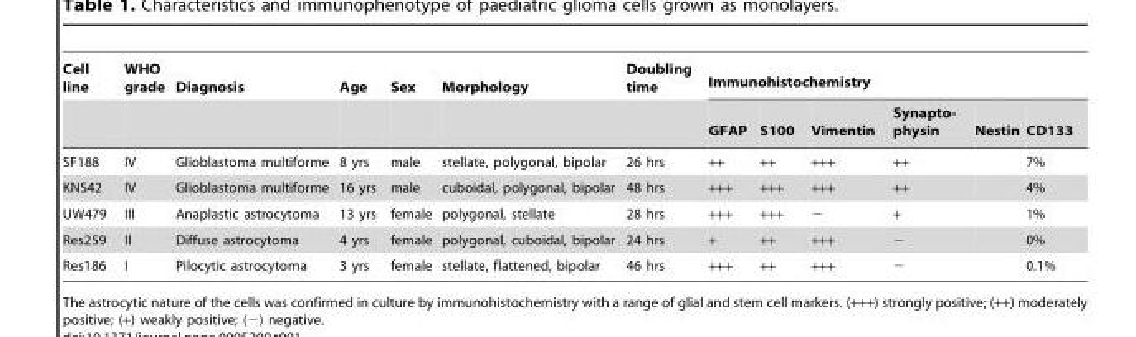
<table><thead><tr><td rowspan="2">Cell line</td><td rowspan="2">WHO grade</td><td rowspan="2">Diagnosis</td><td rowspan="2">Age</td><td rowspan="2">Sex</td><td rowspan="2">Morphology</td><td rowspan="2">Doubling time</td><td colspan="6">Immunohistochemistry</td></tr><tr><td>GFAP</td><td>S100</td><td>Vimentin</td><td>Synapto- physin</td><td>Nestin</td><td>CD133</td></tr></thead><tbody><tr><td>SF188</td><td>IV</td><td>Glioblastoma multiforme</td><td>8 yrs</td><td>male</td><td>stellate, polygonal, bipolar</td><td>26 hrs</td><td>++</td><td>++</td><td>+++</td><td>++</td><td></td><td>7%</td></tr><tr><td>KNS42</td><td>IV</td><td>Glioblastoma multiforme</td><td>16 yrs</td><td>male</td><td>cuboidal, polygonal, bipolar</td><td>48 hrs</td><td>+++</td><td>+++</td><td>+++</td><td>++</td><td></td><td>4%</td></tr><tr><td>UW479</td><td>III</td><td>Anaplastic astrocytoma</td><td>13 yrs</td><td>female</td><td>polygonal, stellate</td><td>28 hrs</td><td>+++</td><td>+++</td><td>−</td><td>+</td><td></td><td>1%</td></tr><tr><td>Res259</td><td>II</td><td>Diffuse astrocytoma</td><td>4 yrs</td><td>female</td><td>polygonal, cuboidal, bipolar</td><td>24 hrs</td><td>+</td><td>++</td><td>+++</td><td>−</td><td></td><td>0%</td></tr><tr><td>Res186</td><td>I</td><td>Pilocytic astrocytoma</td><td>3 yrs</td><td>female</td><td>stellate, flattened, bipolar</td><td>46 hrs</td><td>+++</td><td>++</td><td>+++</td><td>−</td><td></td><td>0.1%</td></tr></tbody></table>